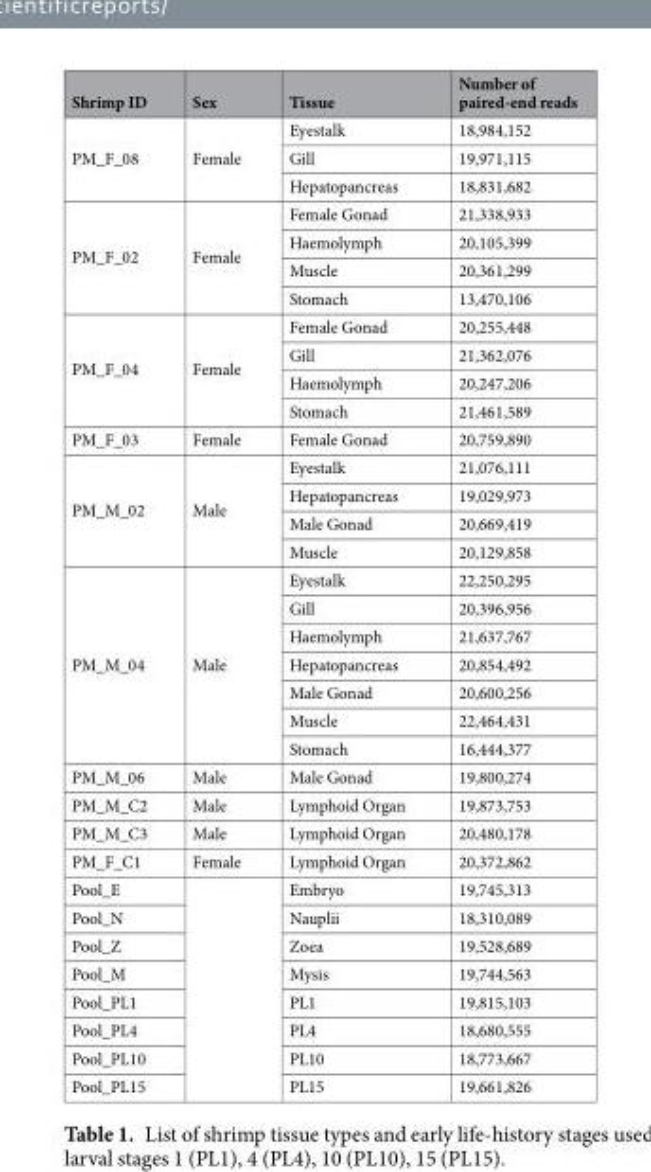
<table><thead><tr><td>Shrimp ID</td><td>Sex</td><td>Tissue</td><td>Number of paired-end reads</td></tr></thead><tbody><tr><td rowspan="3">PM_F_08</td><td rowspan="3">Female</td><td>Eyestalk</td><td>18,984,152</td></tr><tr><td>Gill</td><td>19,971,115</td></tr><tr><td>Hepatopancreas</td><td>18,831,682</td></tr><tr><td rowspan="4">PM_F_02</td><td rowspan="4">Female</td><td>Female Gonad</td><td>21,338,933</td></tr><tr><td>Haemolymph</td><td>20,105,399</td></tr><tr><td>Muscle</td><td>20,361,299</td></tr><tr><td>Stomach</td><td>13,470,106</td></tr><tr><td rowspan="4">PM_F_04</td><td rowspan="4">Female</td><td>Female Gonad</td><td>20,255,448</td></tr><tr><td>Gill</td><td>21,362,076</td></tr><tr><td>Haemolymph</td><td>20,247,206</td></tr><tr><td>Stomach</td><td>21,461,589</td></tr><tr><td>PM_F_03</td><td>Female</td><td>Female Gonad</td><td>20,759,890</td></tr><tr><td rowspan="4">PM_M_02</td><td rowspan="4">Male</td><td>Eyestalk</td><td>21,076,111</td></tr><tr><td>Hepatopancreas</td><td>19,029,973</td></tr><tr><td>Male Gonad</td><td>20,669,419</td></tr><tr><td>Muscle</td><td>20,129,858</td></tr><tr><td rowspan="7">PM_M_04</td><td rowspan="7">Male</td><td>Eyestalk</td><td>22,250,295</td></tr><tr><td>Gill</td><td>20,396,956</td></tr><tr><td>Haemolymph</td><td>21,637,767</td></tr><tr><td>Hepatopancreas</td><td>20,854,492</td></tr><tr><td>Male Gonad</td><td>20,600,256</td></tr><tr><td>Muscle</td><td>22,464,431</td></tr><tr><td>Stomach</td><td>16,444,377</td></tr><tr><td>PM_M_06</td><td>Male</td><td>Male Gonad</td><td>19,800,274</td></tr><tr><td>PM_M_C2</td><td>Male</td><td>Lymphoid Organ</td><td>19,873,753</td></tr><tr><td>PM_M_C3</td><td>Male</td><td>Lymphoid Organ</td><td>20,480,178</td></tr><tr><td>PM_F_C1</td><td>Female</td><td>Lymphoid Organ</td><td>20,372,862</td></tr><tr><td>Pool_E</td><td rowspan="8"></td><td>Embryo</td><td>19,745,313</td></tr><tr><td>Pool_N</td><td>Nauplii</td><td>18,310,089</td></tr><tr><td>Pool_Z</td><td>Zoea</td><td>19,528,689</td></tr><tr><td>Pool_M</td><td>Mysis</td><td>19,744,563</td></tr><tr><td>Pool_PL1</td><td>PL1</td><td>19,815,103</td></tr><tr><td>Pool_PL4</td><td>PL4</td><td>18,680,555</td></tr><tr><td>Pool_PL10</td><td>PL10</td><td>18,773,667</td></tr><tr><td>Pool_PL15</td><td>PL15</td><td>19,661,826</td></tr></tbody></table>